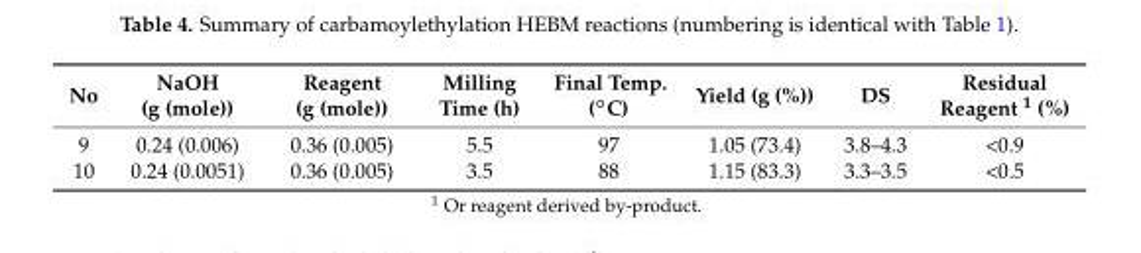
<table><thead><tr><td>No</td><td>NaOH (g (mole))</td><td>Reagent (g (mole))</td><td>Milling Time (h)</td><td>Final Temp. (◦C)</td><td>Yield (g (%))</td><td>DS</td><td>Residual Reagent 1 (%)</td></tr></thead><tbody><tr><td>9</td><td>0.24 (0.006)</td><td>0.36 (0.005)</td><td>5.5</td><td>97</td><td>1.05 (73.4)</td><td>3.8–4.3</td><td>&lt;0.9</td></tr><tr><td>10</td><td>0.24 (0.0051)</td><td>0.36 (0.005)</td><td>3.5</td><td>88</td><td>1.15 (83.3)</td><td>3.3–3.5</td><td>&lt;0.5</td></tr></tbody></table>